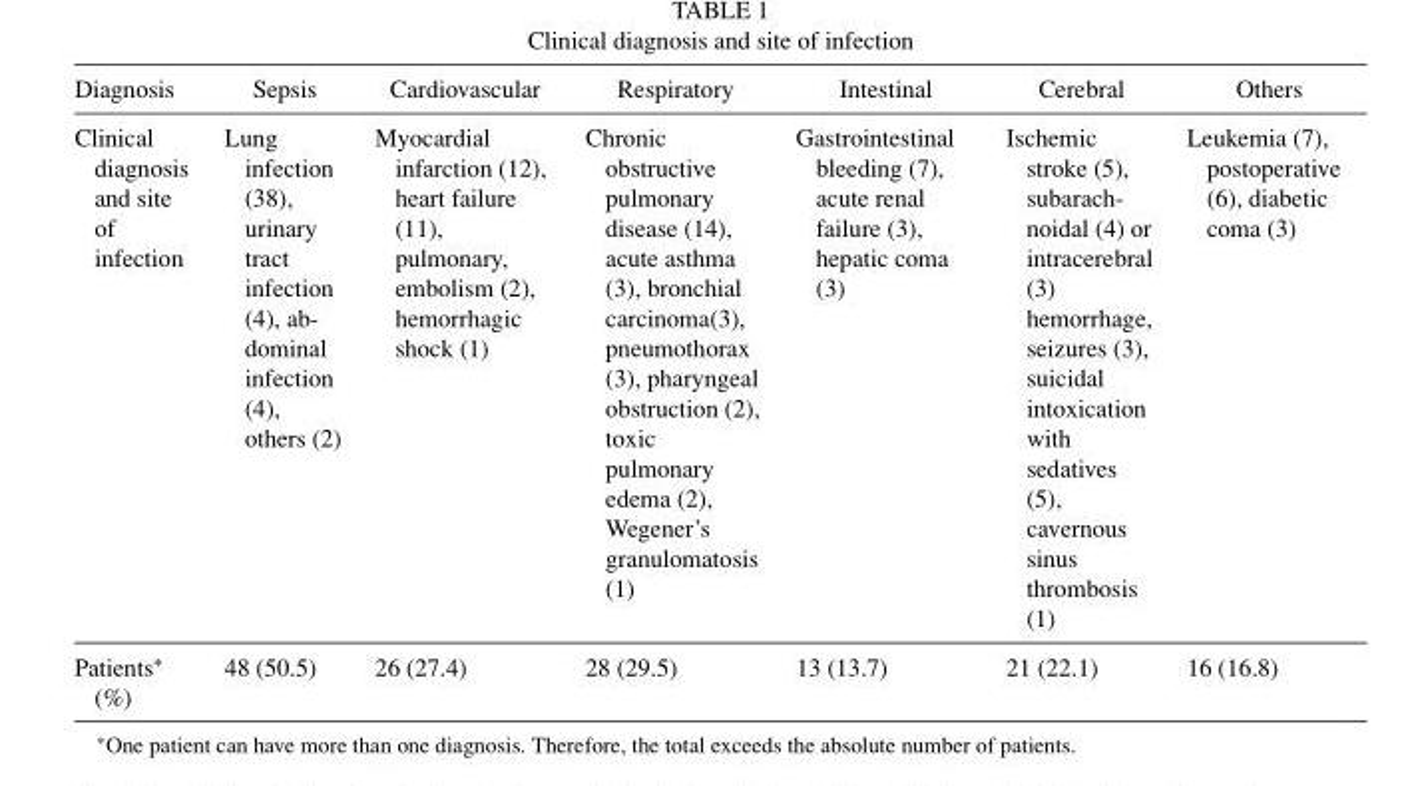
<table><thead><tr><td>Diagnosis</td><td>Sepsis</td><td>Cardiovascular</td><td>Respiratory</td><td>Intestinal</td><td>Cerebral</td><td>Others</td></tr></thead><tbody><tr><td>Clinical diagnosis and site of infection</td><td>Lung infection (38), urinary tract infection (4), ab- dominal infection (4), others (2)</td><td>Myocardial infarction (12), heart failure (11), pulmonary, embolism (2), hemorrhagic shock (1)</td><td>Chronic obstructive pulmonary disease (14), acute asthma (3), bronchial carcinoma(3), pneumothorax (3), pharyngeal obstruction (2), toxic pulmonary edema (2), Wegener’s granulomatosis (1)</td><td>Gastrointestinal bleeding (7), acute renal failure (3), hepatic coma (3)</td><td>Ischemic stroke (5), subarach- noidal (4) or intracerebral (3) hemorrhage, seizures (3), suicidal intoxication with sedatives (5), cavernous sinus thrombosis (1)</td><td>Leukemia (7), postoperative (6), diabetic coma (3)</td></tr><tr><td>Patients∗ (%)</td><td>48 (50.5)</td><td>26 (27.4)</td><td>28 (29.5)</td><td>13 (13.7)</td><td>21 (22.1)</td><td>16 (16.8)</td></tr></tbody></table>